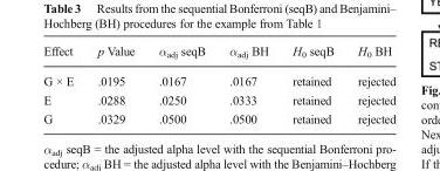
<table><thead><tr><td>Effect</td><td>p Value</td><td>α<sub>adj</sub> seqB</td><td>α<sub>adj</sub> BH</td><td>H<sub>0</sub> seqB</td><td>H<sub>0</sub> BH</td></tr></thead><tbody><tr><td>G × E</td><td>.0195</td><td>.0167</td><td>.0167</td><td>retained</td><td>rejected</td></tr><tr><td>E</td><td>.0288</td><td>.0250</td><td>.0333</td><td>retained</td><td>rejected</td></tr><tr><td>G</td><td>.0329</td><td>.0500</td><td>.0500</td><td>retained</td><td>rejected</td></tr></tbody></table>